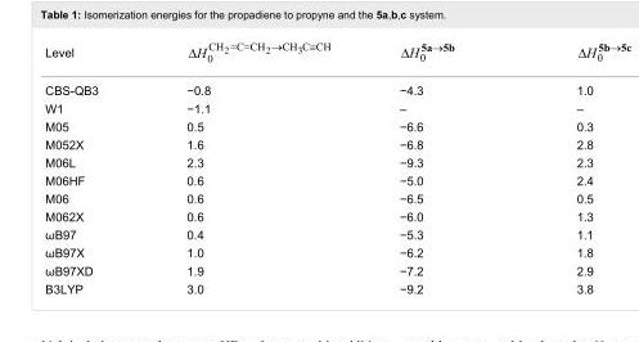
<table><tbody><tr><td colspan="4">Level</td></tr><tr><td>CBS-QB3</td><td>−0.8</td><td>−4.3</td><td>1.0</td></tr><tr><td>W1</td><td>−1.1</td><td>–</td><td>–</td></tr><tr><td>M05</td><td>0.5</td><td>−6.6</td><td>0.3</td></tr><tr><td>M052X</td><td>1.6</td><td>−6.8</td><td>2.8</td></tr><tr><td>M06L</td><td>2.3</td><td>−9.3</td><td>2.3</td></tr><tr><td>M06HF</td><td>0.6</td><td>−5.0</td><td>2.4</td></tr><tr><td>M06</td><td>0.6</td><td>−6.5</td><td>0.5</td></tr><tr><td>M062X</td><td>0.6</td><td>−6.0</td><td>1.3</td></tr><tr><td>ωΒ97</td><td>0.4</td><td>−5.3</td><td>1.1</td></tr><tr><td>ωB97X</td><td>1.0</td><td>−6.2</td><td>1.8</td></tr><tr><td>ωB97XD</td><td>1.9</td><td>−7.2</td><td>2.9</td></tr><tr><td>B3LYP</td><td>3.0</td><td>−9.2</td><td>3.8</td></tr></tbody></table>